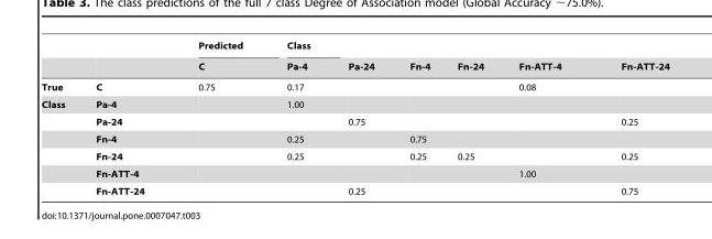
<table><thead><tr><td rowspan="2"></td><td rowspan="2"></td><td rowspan="2">Predicted C</td><td rowspan="2">Class Pa-4</td><td rowspan="2">Pa-24</td><td rowspan="2">Fn-4</td><td rowspan="2">Fn-24</td><td rowspan="2">Fn-ATT-4</td><td rowspan="2">Fn-ATT-24</td></tr><tr></tr></thead><tbody><tr><td>True</td><td>C</td><td>0.75</td><td>0.17</td><td></td><td></td><td></td><td>0.08</td><td></td></tr><tr><td rowspan="6">Class</td><td>Pa-4</td><td></td><td>1.00</td><td></td><td></td><td></td><td></td><td></td></tr><tr><td>Pa-24</td><td></td><td></td><td>0.75</td><td></td><td></td><td></td><td>0.25</td></tr><tr><td>Fn-4</td><td></td><td>0.25</td><td></td><td>0.75</td><td></td><td></td><td></td></tr><tr><td>Fn-24</td><td></td><td>0.25</td><td></td><td>0.25</td><td>0.25</td><td></td><td>0.25</td></tr><tr><td>Fn-ATT-4</td><td></td><td></td><td></td><td></td><td></td><td>1.00</td><td></td></tr><tr><td>Fn-ATT-24</td><td></td><td></td><td>0.25</td><td></td><td></td><td></td><td>0.75</td></tr></tbody></table>